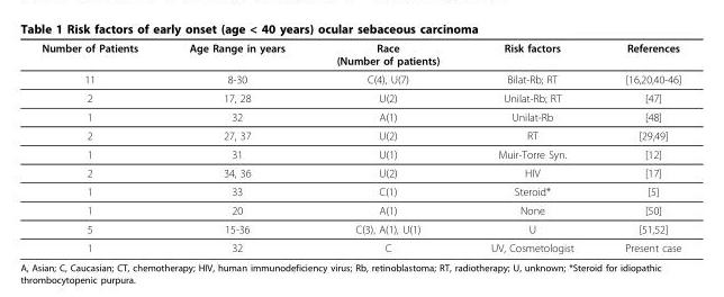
<table><thead><tr><td>Number of Patients</td><td>Age Range in years</td><td>Race (Number of patients)</td><td>Risk factors</td><td>References</td></tr></thead><tbody><tr><td>11</td><td>8-30</td><td>C(4), U(7)</td><td>Bilat-Rb; RT</td><td>[16,20,40-46]</td></tr><tr><td>2</td><td>17, 28</td><td>U(2)</td><td>Unilat-Rb; RT</td><td>[47]</td></tr><tr><td>1</td><td>32</td><td>A(1)</td><td>Unilat-Rb</td><td>[48]</td></tr><tr><td>2</td><td>27, 37</td><td>U(2)</td><td>RT</td><td>[29,49]</td></tr><tr><td>1</td><td>31</td><td>U(1)</td><td>Muir-Torre Syn.</td><td>[12]</td></tr><tr><td>2</td><td>34, 36</td><td>U(2)</td><td>HIV</td><td>[17]</td></tr><tr><td>1</td><td>33</td><td>C(1)</td><td>Steroid*</td><td>[5]</td></tr><tr><td>1</td><td>20</td><td>A(1)</td><td>None</td><td>[50]</td></tr><tr><td>5</td><td>15-36</td><td>C(3), A(1), U(1)</td><td>U</td><td>[51,52]</td></tr><tr><td>1</td><td>32</td><td>C</td><td>UV, Cosmetologist</td><td>Present case</td></tr></tbody></table>